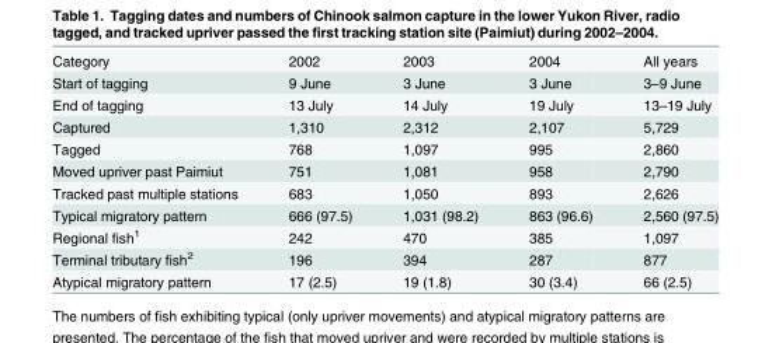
<table><tbody><tr><td>Category</td><td>2002</td><td>2003</td><td>2004</td><td>All years</td></tr><tr><td>Start of tagging</td><td>9 June</td><td>3 June</td><td>3 June</td><td>3–9 June</td></tr><tr><td>End of tagging</td><td>13 July</td><td>14 July</td><td>19 July</td><td>13–19 July</td></tr><tr><td>Captured</td><td>1,310</td><td>2,312</td><td>2,107</td><td>5,729</td></tr><tr><td>Tagged</td><td>768</td><td>1,097</td><td>995</td><td>2,860</td></tr><tr><td>Moved upriver past Paimiut</td><td>751</td><td>1,081</td><td>958</td><td>2,790</td></tr><tr><td>Tracked past multiple stations</td><td>683</td><td>1,050</td><td>893</td><td>2,626</td></tr><tr><td>Typical migratory pattern</td><td>666 (97.5)</td><td>1,031 (98.2)</td><td>863 (96.6)</td><td>2,560 (97.5)</td></tr><tr><td>Regional fish<sup>1</sup></td><td>242</td><td>470</td><td>385</td><td>1,097</td></tr><tr><td>Terminal tributary fish<sup>2</sup></td><td>196</td><td>394</td><td>287</td><td>877</td></tr><tr><td>Atypical migratory pattern</td><td>17 (2.5)</td><td>19 (1.8)</td><td>30 (3.4)</td><td>66 (2.5)</td></tr></tbody></table>